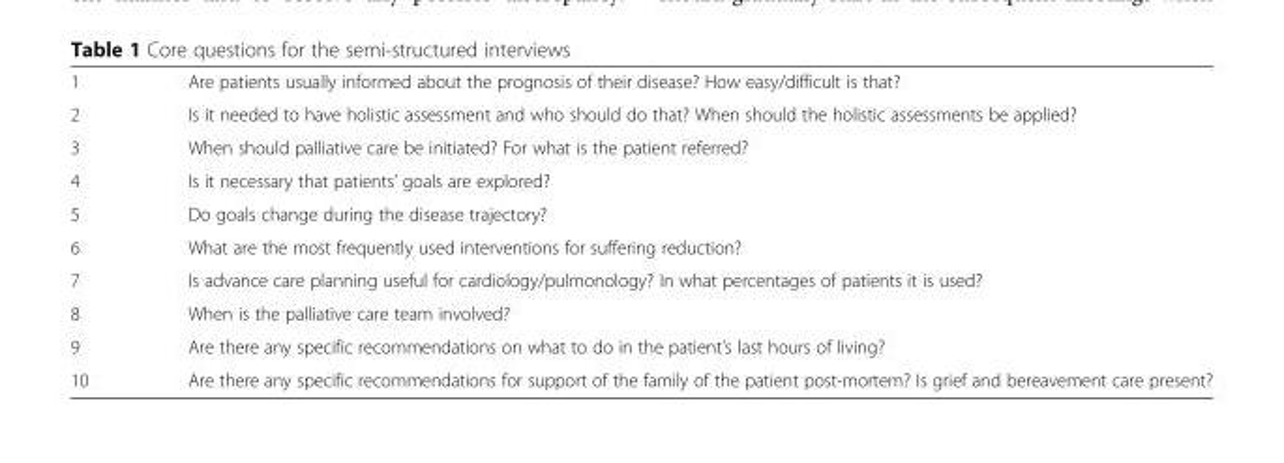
<table><tbody><tr><td>1</td><td>Are patients usually informed about the prognosis of their disease? How easy/difficult is that?</td></tr><tr><td>2</td><td>Is it needed to have holistic assessment and who should do that? When should the holistic assessments be applied?</td></tr><tr><td>3</td><td>When should palliative care be initiated? For what is the patient referred?</td></tr><tr><td>4</td><td>Is it necessary that patients’ goals are explored?</td></tr><tr><td>5</td><td>Do goals change during the disease trajectory?</td></tr><tr><td>6</td><td>What are the most frequently used interventions for suffering reduction?</td></tr><tr><td>7</td><td>Is advance care planning useful for cardiology/pulmonology? In what percentages of patients it is used?</td></tr><tr><td>8</td><td>When is the palliative care team involved?</td></tr><tr><td>9</td><td>Are there any specific recommendations on what to do in the patient’s last hours of living?</td></tr><tr><td>10</td><td>Are there any specific recommendations for support of the family of the patient post-mortem? Is grief and bereavement care present?</td></tr></tbody></table>